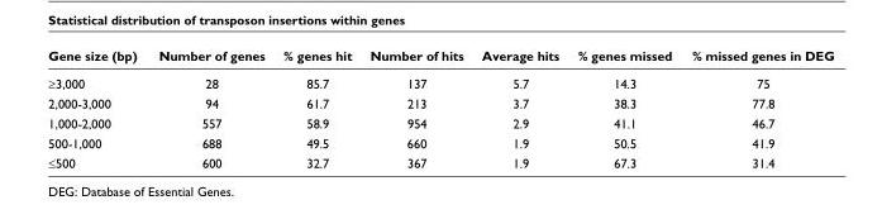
<table><thead><tr><td>Gene size (bp)</td><td>Number of genes</td><td>% genes hit</td><td>Number of hits</td><td>Average hits</td><td>% genes missed</td><td>% missed genes in DEG</td></tr></thead><tbody><tr><td>≥3,000</td><td>28</td><td>85.7</td><td>137</td><td>5.7</td><td>14.3</td><td>75</td></tr><tr><td>2,000-3,000</td><td>94</td><td>61.7</td><td>213</td><td>3.7</td><td>38.3</td><td>77.8</td></tr><tr><td>1,000-2,000</td><td>557</td><td>58.9</td><td>954</td><td>2.9</td><td>41.1</td><td>46.7</td></tr><tr><td>500-1,000</td><td>688</td><td>49.5</td><td>660</td><td>1.9</td><td>50.5</td><td>41.9</td></tr><tr><td>≤500</td><td>600</td><td>32.7</td><td>367</td><td>1.9</td><td>67.3</td><td>31.4</td></tr></tbody></table>